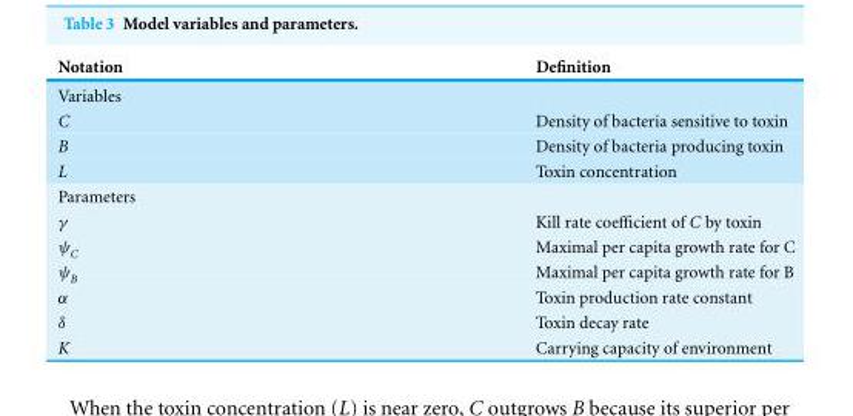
<table><thead><tr><td>Notation</td><td>Definition</td></tr></thead><tbody><tr><td colspan="2">Variables</td></tr><tr><td>C</td><td>Density of bacteria sensitive to toxin</td></tr><tr><td>B</td><td>Density of bacteria producing toxin</td></tr><tr><td>L</td><td>Toxin concentration</td></tr><tr><td colspan="2">Parameters</td></tr><tr><td>γ</td><td>Kill rate coefficient of C by toxin</td></tr><tr><td>ψC</td><td>Maximal per capita growth rate for C</td></tr><tr><td>ψB</td><td>Maximal per capita growth rate for B</td></tr><tr><td>α</td><td>Toxin production rate constant</td></tr><tr><td>δ</td><td>Toxin decay rate</td></tr><tr><td>K</td><td>Carrying capacity of environment</td></tr></tbody></table>